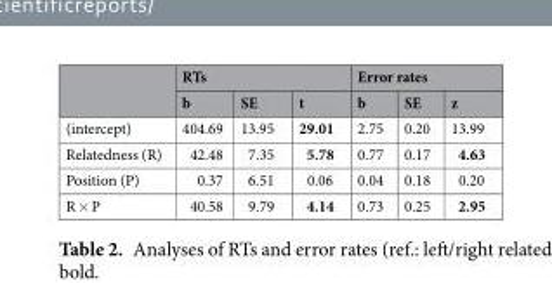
<table><thead><tr><td rowspan="2"></td><td colspan="3">RTs</td><td colspan="3">Error rates</td></tr><tr><td>b</td><td>SE</td><td>t</td><td>b</td><td>SE</td><td>z</td></tr></thead><tbody><tr><td>(intercept)</td><td>404.69</td><td>13.95</td><td>29.01</td><td>2.75</td><td>0.20</td><td>13.99</td></tr><tr><td>Relatedness (R)</td><td>42.48</td><td>7.35</td><td>5.78</td><td>0.77</td><td>0.17</td><td>4.63</td></tr><tr><td>Position (P)</td><td>0.37</td><td>6.51</td><td>0.06</td><td>0.04</td><td>0.18</td><td>0.20</td></tr><tr><td>R × P</td><td>40.58</td><td>9.79</td><td>4.14</td><td>0.73</td><td>0.25</td><td>2.95</td></tr></tbody></table>